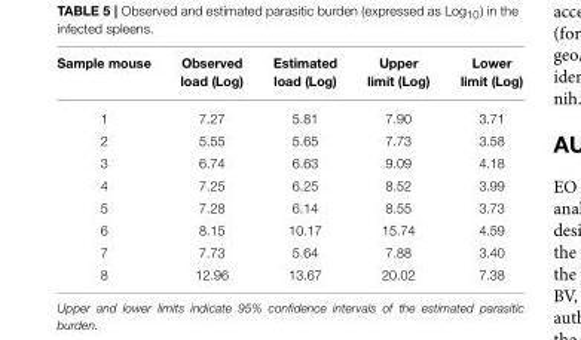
<table><thead><tr><td>Sample mouse</td><td>Observed load (Log)</td><td>Estimated load (Log)</td><td>Upper limit (Log)</td><td>Lower limit (Log)</td></tr></thead><tbody><tr><td>1</td><td>7.27</td><td>5.81</td><td>7.90</td><td>3.71</td></tr><tr><td>2</td><td>5.55</td><td>5.65</td><td>7.73</td><td>3.58</td></tr><tr><td>3</td><td>6.74</td><td>6.63</td><td>9.09</td><td>4.18</td></tr><tr><td>4</td><td>7.25</td><td>6.25</td><td>8.52</td><td>3.99</td></tr><tr><td>5</td><td>7.28</td><td>6.14</td><td>8.55</td><td>3.73</td></tr><tr><td>6</td><td>8.15</td><td>10.17</td><td>15.74</td><td>4.59</td></tr><tr><td>7</td><td>7.73</td><td>5.64</td><td>7.88</td><td>3.40</td></tr><tr><td>8</td><td>12.96</td><td>13.67</td><td>20.02</td><td>7.38</td></tr></tbody></table>